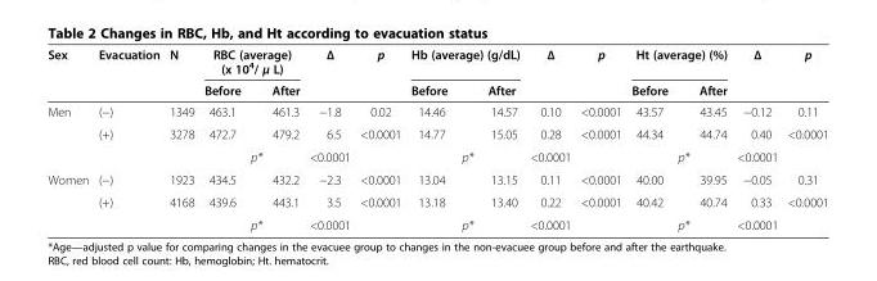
<table><thead><tr><td rowspan="2">Sex</td><td rowspan="2">Evacuation</td><td rowspan="2">N</td><td colspan="3">RBC (average) (x 10<sup>4</sup>/ μ L)</td><td rowspan="2">Δ</td><td rowspan="2">p</td><td colspan="3">Hb (average) (g/dL)</td><td rowspan="2">Δ</td><td rowspan="2">p</td><td colspan="3">Ht (average) (%)</td><td rowspan="2">Δ</td><td rowspan="2">p</td></tr><tr><td>Before</td><td></td><td>After</td><td>Before</td><td></td><td>After</td><td>Before</td><td></td><td>After</td></tr></thead><tbody><tr><td rowspan="3">Men</td><td>(−)</td><td>1349</td><td>463.1</td><td></td><td>461.3</td><td>−1.8</td><td>0.02</td><td>14.46</td><td></td><td>14.57</td><td>0.10</td><td>&lt;0.0001</td><td>43.57</td><td></td><td>43.45</td><td>−0.12</td><td>0.11</td></tr><tr><td>(+)</td><td>3278</td><td>472.7</td><td></td><td>479.2</td><td>6.5</td><td>&lt;0.0001</td><td>14.77</td><td></td><td>15.05</td><td>0.28</td><td>&lt;0.0001</td><td>44.34</td><td></td><td>44.74</td><td>0.40</td><td>&lt;0.0001</td></tr><tr><td></td><td></td><td></td><td>p*</td><td></td><td>&lt;0.0001</td><td></td><td></td><td>p*</td><td></td><td>&lt;0.0001</td><td></td><td></td><td>p*</td><td></td><td>&lt;0.0001</td><td></td></tr><tr><td rowspan="3">Women</td><td>(−)</td><td>1923</td><td>434.5</td><td></td><td>432.2</td><td>−2.3</td><td>&lt;0.0001</td><td>13.04</td><td></td><td>13.15</td><td>0.11</td><td>&lt;0.0001</td><td>40.00</td><td></td><td>39.95</td><td>−0.05</td><td>0.31</td></tr><tr><td>(+)</td><td>4168</td><td>439.6</td><td></td><td>443.1</td><td>3.5</td><td>&lt;0.0001</td><td>13.18</td><td></td><td>13.40</td><td>0.22</td><td>&lt;0.0001</td><td>40.42</td><td></td><td>40.74</td><td>0.33</td><td>&lt;0.0001</td></tr><tr><td></td><td></td><td></td><td>p*</td><td></td><td>&lt;0.0001</td><td></td><td></td><td>p*</td><td></td><td>&lt;0.0001</td><td></td><td></td><td>p*</td><td></td><td>&lt;0.0001</td><td></td></tr></tbody></table>